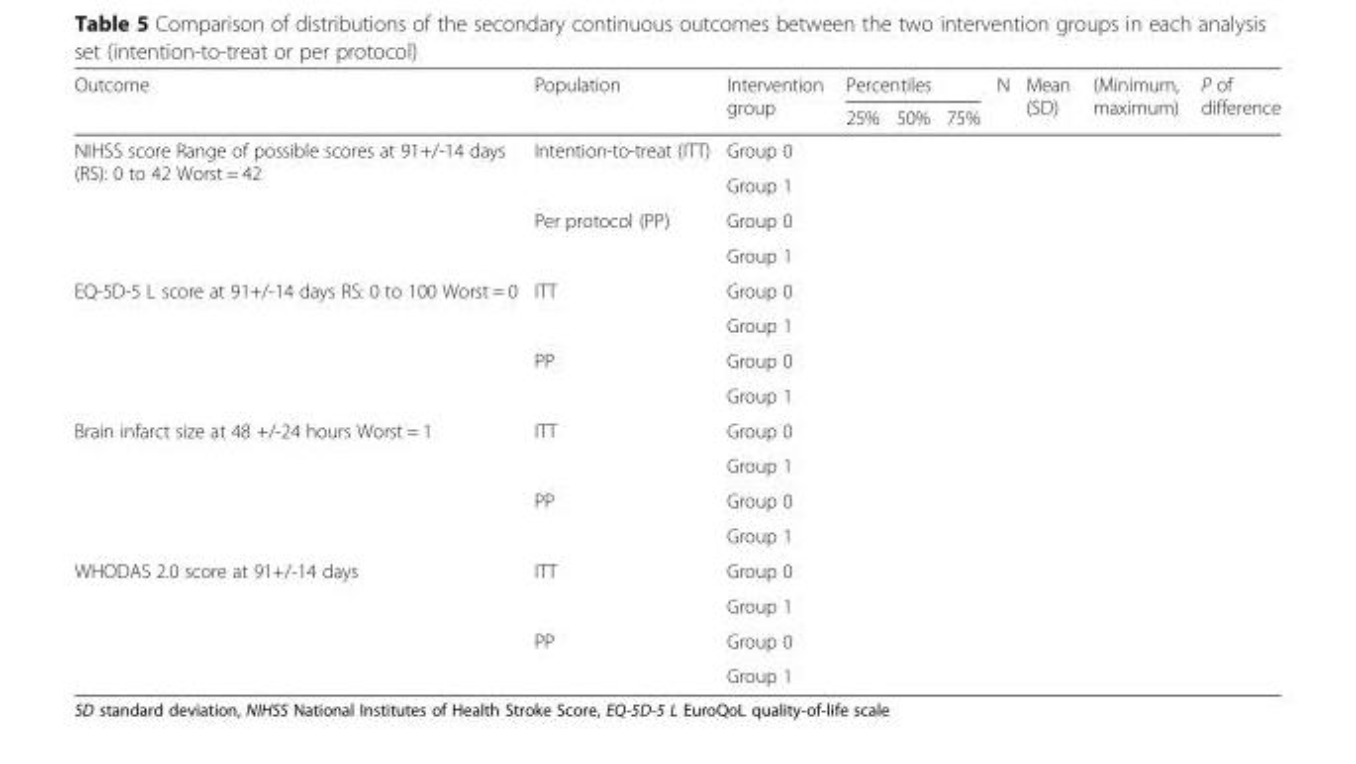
<table><thead><tr><td rowspan="2">Outcome</td><td rowspan="2">Population</td><td rowspan="2">Intervention group</td><td colspan="3">Percentiles</td><td rowspan="2">N</td><td rowspan="2">Mean (SD)</td><td rowspan="2">(Minimum, maximum)</td><td rowspan="2">P of difference</td></tr><tr><td>25%</td><td>50%</td><td>75%</td></tr></thead><tbody><tr><td rowspan="4">NIHSS score Range of possible scores at 91+/-14 days (RS): 0 to 42 Worst = 42</td><td rowspan="2">Intention-to-treat (ITT)</td><td>Group 0</td><td></td><td></td><td></td><td></td><td></td><td></td><td rowspan="2"></td></tr><tr><td>Group 1</td><td></td><td></td><td></td><td></td><td></td><td></td></tr><tr><td rowspan="2">Per protocol (PP)</td><td>Group 0</td><td></td><td></td><td></td><td></td><td></td><td></td><td rowspan="2"></td></tr><tr><td>Group 1</td><td></td><td></td><td></td><td></td><td></td><td></td></tr><tr><td rowspan="4">EQ-5D-5 L score at 91+/-14 days RS: 0 to 100 Worst = 0</td><td rowspan="2">ITT</td><td>Group 0</td><td></td><td></td><td></td><td></td><td></td><td></td><td rowspan="2"></td></tr><tr><td>Group 1</td><td></td><td></td><td></td><td></td><td></td><td></td></tr><tr><td rowspan="2">PP</td><td>Group 0</td><td></td><td></td><td></td><td></td><td></td><td></td><td rowspan="2"></td></tr><tr><td>Group 1</td><td></td><td></td><td></td><td></td><td></td><td></td></tr><tr><td rowspan="4">Brain infarct size at 48 +/-24 hours Worst = 1</td><td rowspan="2">ITT</td><td>Group 0</td><td></td><td></td><td></td><td></td><td></td><td></td><td rowspan="2"></td></tr><tr><td>Group 1</td><td></td><td></td><td></td><td></td><td></td><td></td></tr><tr><td rowspan="2">PP</td><td>Group 0</td><td></td><td></td><td></td><td></td><td></td><td></td><td rowspan="2"></td></tr><tr><td>Group 1</td><td></td><td></td><td></td><td></td><td></td><td></td></tr><tr><td rowspan="4">WHODAS 2.0 score at 91+/-14 days</td><td rowspan="2">ITT</td><td>Group 0</td><td></td><td></td><td></td><td></td><td></td><td></td><td rowspan="2"></td></tr><tr><td>Group 1</td><td></td><td></td><td></td><td></td><td></td><td></td></tr><tr><td rowspan="2">PP</td><td>Group 0</td><td></td><td></td><td></td><td></td><td></td><td></td><td rowspan="2"></td></tr><tr><td>Group 1</td><td></td><td></td><td></td><td></td><td></td><td></td></tr></tbody></table>